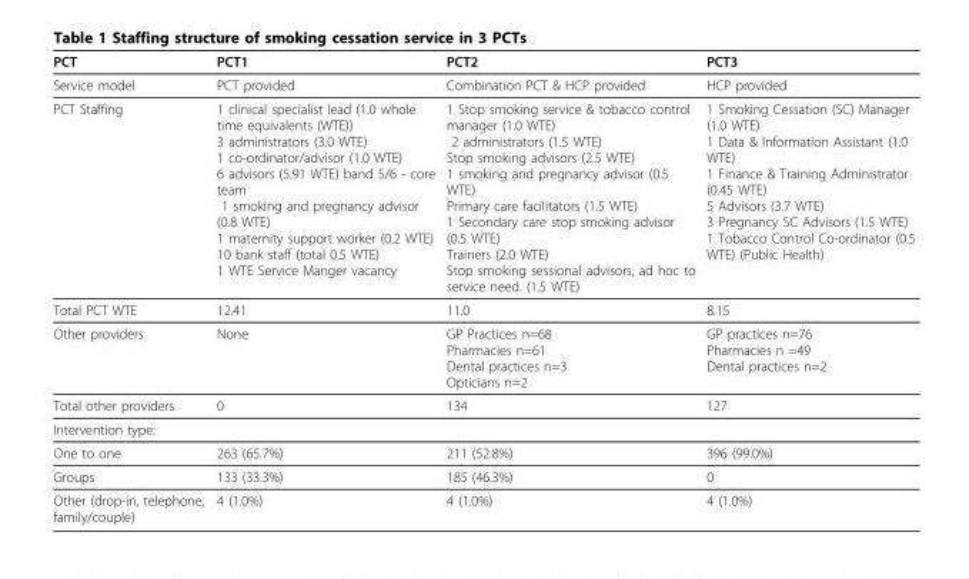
<table><thead><tr><td>PCT</td><td>PCT1</td><td>PCT2</td><td>PCT3</td></tr></thead><tbody><tr><td>Service model</td><td>PCT provided</td><td>Combination PCT &amp; HCP provided</td><td>HCP provided</td></tr><tr><td>PCT Staffing</td><td>1 clinical specialist lead (1.0 whole time equivalents (WTE)) 3 administrators (3.0 WTE) 1 co-ordinator/advisor (1.0 WTE) 6 advisors (5.91 WTE) band 5/6 - core team 1 smoking and pregnancy advisor (0.8 WTE) 1 maternity support worker (0.2 WTE) 10 bank staff (total 0.5 WTE) 1 WTE Service Manger vacancy</td><td>1 Stop smoking service &amp; tobacco control manager (1.0 WTE) 2 administrators (1.5 WTE) Stop smoking advisors (2.5 WTE) 1 smoking and pregnancy advisor (0.5 WTE) Primary care facilitators (1.5 WTE) 1 Secondary care stop smoking advisor (0.5 WTE) Trainers (2.0 WTE) Stop smoking sessional advisors, ad hoc to service need. (1.5 WTE)</td><td>1 Smoking Cessation (SC) Manager (1.0 WTE) 1 Data &amp; Information Assistant (1.0 WTE) 1 Finance &amp; Training Administrator (0.45 WTE) 5 Advisors (3.7 WTE) 3 Pregnancy SC Advisors (1.5 WTE) 1 Tobacco Control Co-ordinator (0.5 WTE) (Public Health)</td></tr><tr><td>Total PCT WTE</td><td>12.41</td><td>11.0</td><td>8.15</td></tr><tr><td>Other providers</td><td>None</td><td>GP Practices n=68 Pharmacies n=61 Dental practices n=3 Opticians n=2</td><td>GP practices n=76 Pharmacies n =49 Dental practices n=2</td></tr><tr><td>Total other providers</td><td>0</td><td>134</td><td>127</td></tr><tr><td colspan="4">Intervention type:</td></tr><tr><td>One to one</td><td>263 (65.7%)</td><td>211 (52.8%)</td><td>396 (99.0%)</td></tr><tr><td>Groups</td><td>133 (33.3%)</td><td>185 (46.3%)</td><td>0</td></tr><tr><td>Other (drop-in, telephone, family/couple)</td><td>4 (1.0%)</td><td>4 (1.0%)</td><td>4 (1.0%)</td></tr></tbody></table>